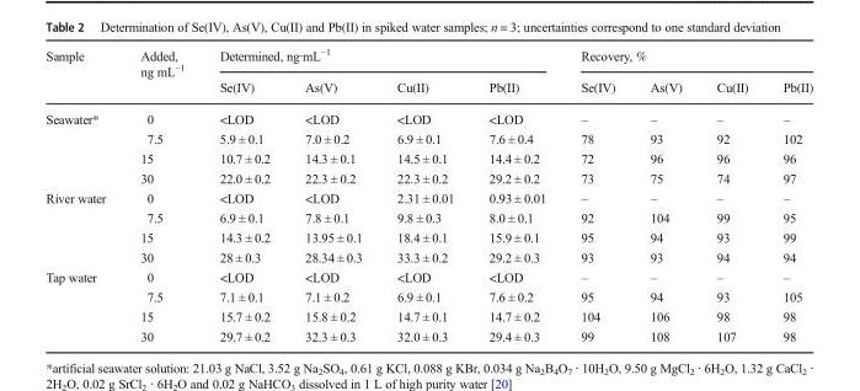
<table><thead><tr><td rowspan="2">Sample</td><td rowspan="2">Added, ng mL<sup>−1</sup></td><td colspan="4">Determined, ng∙mL<sup>−1</sup></td><td colspan="4">Recovery, %</td></tr><tr><td>Se(IV)</td><td>As(V)</td><td>Cu(II)</td><td>Pb(II)</td><td>Se(IV)</td><td>As(V)</td><td>Cu(II)</td><td>Pb(II)</td></tr></thead><tbody><tr><td rowspan="4">Seawater*</td><td>0</td><td>&lt;LOD</td><td>&lt;LOD</td><td>&lt;LOD</td><td>&lt;LOD</td><td>–</td><td>–</td><td>–</td><td>–</td></tr><tr><td>7.5</td><td>5.9 ± 0.1</td><td>7.0 ± 0.2</td><td>6.9 ± 0.1</td><td>7.6 ± 0.4</td><td>78</td><td>93</td><td>92</td><td>102</td></tr><tr><td>15</td><td>10.7 ± 0.2</td><td>14.3 ± 0.1</td><td>14.5 ± 0.1</td><td>14.4 ± 0.2</td><td>72</td><td>96</td><td>96</td><td>96</td></tr><tr><td>30</td><td>22.0 ± 0.2</td><td>22.3 ± 0.2</td><td>22.3 ± 0.2</td><td>29.2 ± 0.2</td><td>73</td><td>75</td><td>74</td><td>97</td></tr><tr><td rowspan="4">River water</td><td>0</td><td>&lt;LOD</td><td>&lt;LOD</td><td>2.31 ± 0.01</td><td>0.93 ± 0.01</td><td>–</td><td>–</td><td>–</td><td>–</td></tr><tr><td>7.5</td><td>6.9 ± 0.1</td><td>7.8 ± 0.1</td><td>9.8 ± 0.3</td><td>8.0 ± 0.1</td><td>92</td><td>104</td><td>99</td><td>95</td></tr><tr><td>15</td><td>14.3 ± 0.2</td><td>13.95 ± 0.1</td><td>18.4 ± 0.1</td><td>15.9 ± 0.1</td><td>95</td><td>94</td><td>93</td><td>99</td></tr><tr><td>30</td><td>28 ± 0.3</td><td>28.34 ± 0.3</td><td>33.3 ± 0.2</td><td>29.2 ± 0.3</td><td>93</td><td>93</td><td>94</td><td>94</td></tr><tr><td rowspan="4">Tap water</td><td>0</td><td>&lt;LOD</td><td>&lt;LOD</td><td>&lt;LOD</td><td>&lt;LOD</td><td>–</td><td>–</td><td>–</td><td>–</td></tr><tr><td>7.5</td><td>7.1 ± 0.1</td><td>7.1 ± 0.2</td><td>6.9 ± 0.1</td><td>7.6 ± 0.2</td><td>95</td><td>94</td><td>93</td><td>105</td></tr><tr><td>15</td><td>15.7 ± 0.2</td><td>15.8 ± 0.2</td><td>14.7 ± 0.1</td><td>14.7 ± 0.2</td><td>104</td><td>106</td><td>98</td><td>98</td></tr><tr><td>30</td><td>29.7 ± 0.2</td><td>32.3 ± 0.3</td><td>32.0 ± 0.3</td><td>29.4 ± 0.3</td><td>99</td><td>108</td><td>107</td><td>98</td></tr></tbody></table>